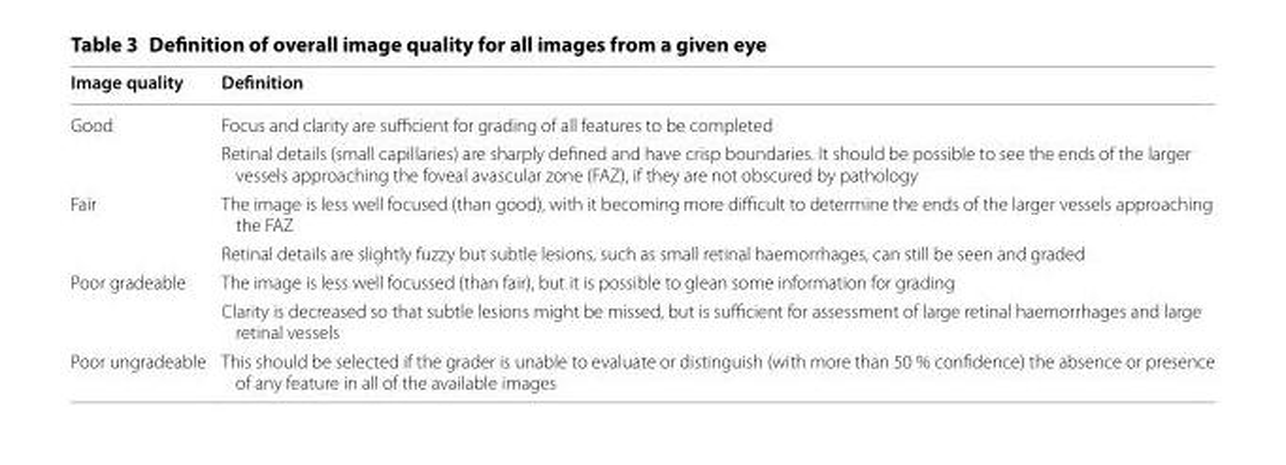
<table><thead><tr><td>Image quality</td><td>Definition</td></tr></thead><tbody><tr><td rowspan="2">Good</td><td>Focus and clarity are sufficient for grading of all features to be completed</td></tr><tr><td>Retinal details (small capillaries) are sharply defined and have crisp boundaries. It should be possible to see the ends of the larger vessels approaching the foveal avascular zone (FAZ), if they are not obscured by pathology</td></tr><tr><td rowspan="2">Fair</td><td>The image is less well focused (than good), with it becoming more difficult to determine the ends of the larger vessels approaching the FAZ</td></tr><tr><td>Retinal details are slightly fuzzy but subtle lesions, such as small retinal haemorrhages, can still be seen and graded</td></tr><tr><td rowspan="2">Poor gradeable</td><td>The image is less well focussed (than fair), but it is possible to glean some information for grading</td></tr><tr><td>Clarity is decreased so that subtle lesions might be missed, but is sufficient for assessment of large retinal haemorrhages and large retinal vessels</td></tr><tr><td>Poor ungradeable</td><td>This should be selected if the grader is unable to evaluate or distinguish (with more than 50 % confidence) the absence or presence of any feature in all of the available images</td></tr></tbody></table>